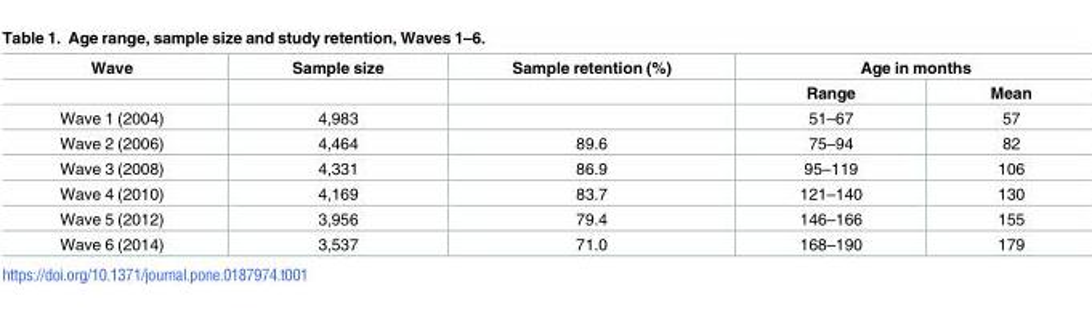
<table><thead><tr><td rowspan="2">Wave</td><td rowspan="2">Sample size</td><td rowspan="2">Sample retention (%)</td><td colspan="2">Age in months</td></tr><tr><td>Range</td><td>Mean</td></tr></thead><tbody><tr><td>Wave 1 (2004)</td><td>4,983</td><td></td><td>51–67</td><td>57</td></tr><tr><td>Wave 2 (2006)</td><td>4,464</td><td>89.6</td><td>75–94</td><td>82</td></tr><tr><td>Wave 3 (2008)</td><td>4,331</td><td>86.9</td><td>95–119</td><td>106</td></tr><tr><td>Wave 4 (2010)</td><td>4,169</td><td>83.7</td><td>121–140</td><td>130</td></tr><tr><td>Wave 5 (2012)</td><td>3,956</td><td>79.4</td><td>146–166</td><td>155</td></tr><tr><td>Wave 6 (2014)</td><td>3,537</td><td>71.0</td><td>168–190</td><td>179</td></tr></tbody></table>